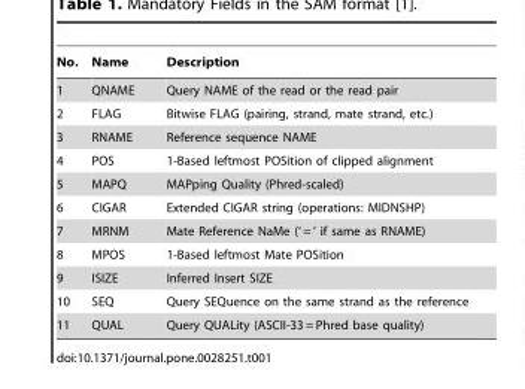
<table><thead><tr><td>No.</td><td>Name</td><td>Description</td></tr></thead><tbody><tr><td>1</td><td>QNAME</td><td>Query NAME of the read or the read pair</td></tr><tr><td>2</td><td>FLAG</td><td>Bitwise FLAG (pairing, strand, mate strand, etc.)</td></tr><tr><td>3</td><td>RNAME</td><td>Reference sequence NAME</td></tr><tr><td>4</td><td>POS</td><td>1-Based leftmost POSition of clipped alignment</td></tr><tr><td>5</td><td>MAPQ</td><td>MAPping Quality (Phred-scaled)</td></tr><tr><td>6</td><td>CIGAR</td><td>Extended CIGAR string (operations: MIDNSHP)</td></tr><tr><td>7</td><td>MRNM</td><td>Mate Reference NaMe (‘ = ’ if same as RNAME)</td></tr><tr><td>8</td><td>MPOS</td><td>1-Based leftmost Mate POSition</td></tr><tr><td>9</td><td>ISIZE</td><td>Inferred Insert SIZE</td></tr><tr><td>10</td><td>SEQ</td><td>Query SEQuence on the same strand as the reference</td></tr><tr><td>11</td><td>QUAL</td><td>Query QUALity (ASCII-33 = Phred base quality)</td></tr></tbody></table>